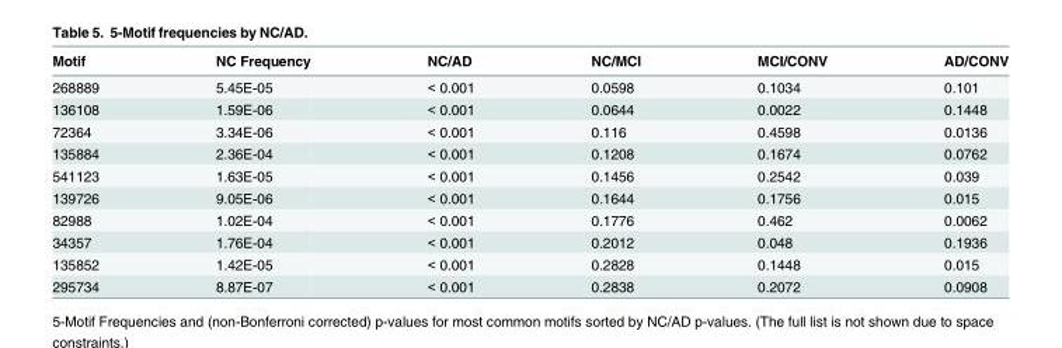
<table><thead><tr><td>Motif</td><td>NC Frequency</td><td>NC/AD</td><td>NC/MCI</td><td>MCI/CONV</td><td>AD/CONV</td></tr></thead><tbody><tr><td>268889</td><td>5.45E-05</td><td>&lt; 0.001</td><td>0.0598</td><td>0.1034</td><td>0.101</td></tr><tr><td>136108</td><td>1.59E-06</td><td>&lt; 0.001</td><td>0.0644</td><td>0.0022</td><td>0.1448</td></tr><tr><td>72364</td><td>3.34E-06</td><td>&lt; 0.001</td><td>0.116</td><td>0.4598</td><td>0.0136</td></tr><tr><td>135884</td><td>2.36E-04</td><td>&lt; 0.001</td><td>0.1208</td><td>0.1674</td><td>0.0762</td></tr><tr><td>541123</td><td>1.63E-05</td><td>&lt; 0.001</td><td>0.1456</td><td>0.2542</td><td>0.039</td></tr><tr><td>139726</td><td>9.05E-06</td><td>&lt; 0.001</td><td>0.1644</td><td>0.1756</td><td>0.015</td></tr><tr><td>82988</td><td>1.02E-04</td><td>&lt; 0.001</td><td>0.1776</td><td>0.462</td><td>0.0062</td></tr><tr><td>34357</td><td>1.76E-04</td><td>&lt; 0.001</td><td>0.2012</td><td>0.048</td><td>0.1936</td></tr><tr><td>135852</td><td>1.42E-05</td><td>&lt; 0.001</td><td>0.2828</td><td>0.1448</td><td>0.015</td></tr><tr><td>295734</td><td>8.87E-07</td><td>&lt; 0.001</td><td>0.2838</td><td>0.2072</td><td>0.0908</td></tr></tbody></table>